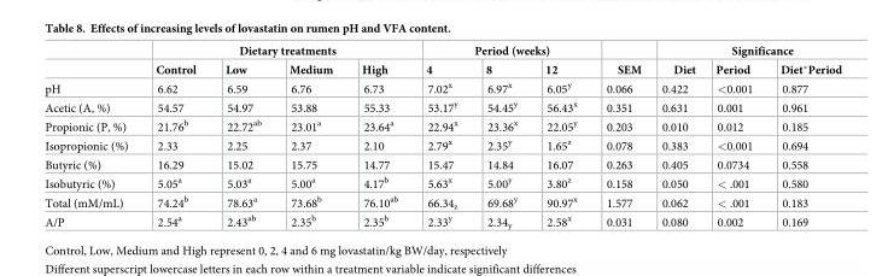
<table><thead><tr><td rowspan="2"></td><td colspan="4">Dietary treatments</td><td colspan="3">Period (weeks)</td><td rowspan="2">SEM</td><td colspan="3">Significance</td></tr><tr><td>Control</td><td>Low</td><td>Medium</td><td>High</td><td>4</td><td>8</td><td>12</td><td>Diet</td><td>Period</td><td>Diet*Period</td></tr></thead><tbody><tr><td>pH</td><td>6.62</td><td>6.59</td><td>6.76</td><td>6.73</td><td>7.02<sup>x</sup></td><td>6.97<sup>x</sup></td><td>6.05<sup>y</sup></td><td>0.066</td><td>0.422</td><td>&lt;0.001</td><td>0.877</td></tr><tr><td>Acetic (A, %)</td><td>54.57</td><td>54.97</td><td>53.88</td><td>55.33</td><td>53.17<sup>y</sup></td><td>54.45<sup>y</sup></td><td>56.43<sup>x</sup></td><td>0.351</td><td>0.631</td><td>0.001</td><td>0.961</td></tr><tr><td>Propionic (P, %)</td><td>21.76<sup>b</sup></td><td>22.72<sup>ab</sup></td><td>23.01<sup>a</sup></td><td>23.64<sup>a</sup></td><td>22.94<sup>x</sup></td><td>23.36<sup>x</sup></td><td>22.05<sup>y</sup></td><td>0.203</td><td>0.010</td><td>0.012</td><td>0.185</td></tr><tr><td>Isopropionic (%)</td><td>2.33</td><td>2.25</td><td>2.37</td><td>2.10</td><td>2.79<sup>x</sup></td><td>2.35<sup>y</sup></td><td>1.65<sup>z</sup></td><td>0.078</td><td>0.383</td><td>&lt;0.001</td><td>0.694</td></tr><tr><td>Butyric (%)</td><td>16.29</td><td>15.02</td><td>15.75</td><td>14.77</td><td>15.47</td><td>14.84</td><td>16.07</td><td>0.263</td><td>0.405</td><td>0.0734</td><td>0.558</td></tr><tr><td>Isobutyric (%)</td><td>5.05<sup>a</sup></td><td>5.03<sup>a</sup></td><td>5.00<sup>a</sup></td><td>4.17<sup>b</sup></td><td>5.63<sup>x</sup></td><td>5.00<sup>y</sup></td><td>3.80<sup>z</sup></td><td>0.158</td><td>0.050</td><td>&lt; .001</td><td>0.580</td></tr><tr><td>Total (mM/mL)</td><td>74.24<sup>b</sup></td><td>78.63<sup>a</sup></td><td>73.68<sup>b</sup></td><td>76.10<sup>ab</sup></td><td>66.34<sub>z</sub></td><td>69.68<sup>y</sup></td><td>90.97<sup>x</sup></td><td>1.577</td><td>0.062</td><td>&lt; .001</td><td>0.183</td></tr><tr><td>A/P</td><td>2.54<sup>a</sup></td><td>2.43<sup>ab</sup></td><td>2.35<sup>b</sup></td><td>2.35<sup>b</sup></td><td>2.33<sup>y</sup></td><td>2.34<sub>y</sub></td><td>2.58<sup>x</sup></td><td>0.031</td><td>0.080</td><td>0.002</td><td>0.169</td></tr></tbody></table>